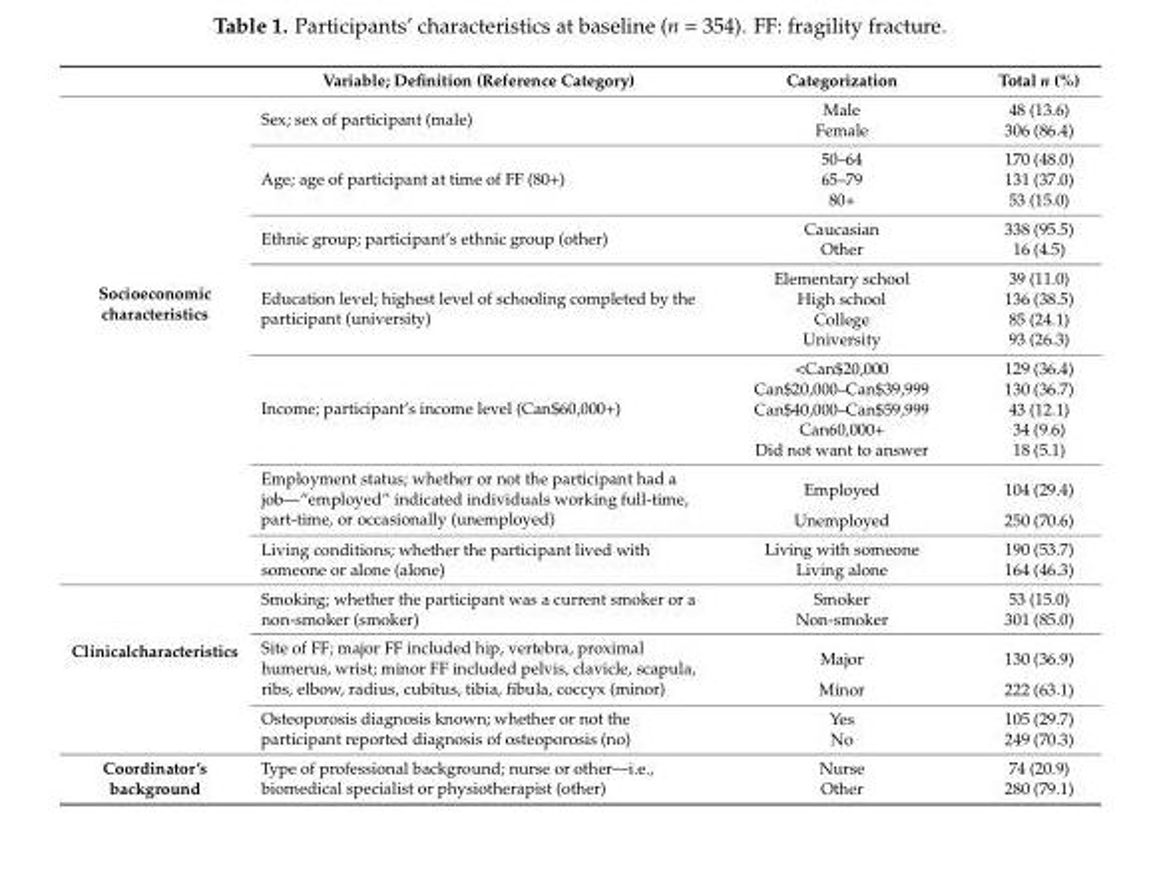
<table><thead><tr><td></td><td>Variable; Definition (Reference Category)</td><td>Categorization</td><td>Total n (%)</td></tr></thead><tbody><tr><td rowspan="20">Socioeconomic characteristics</td><td rowspan="2">Sex; sex of participant (male)</td><td>Male</td><td>48 (13.6)</td></tr><tr><td>Female</td><td>306 (86.4)</td></tr><tr><td rowspan="3">Age; age of participant at time of FF (80+)</td><td>50–64</td><td>170 (48.0)</td></tr><tr><td>65–79</td><td>131 (37.0)</td></tr><tr><td>80+</td><td>53 (15.0)</td></tr><tr><td rowspan="2">Ethnic group; participant’s ethnic group (other)</td><td>Caucasian</td><td>338 (95.5)</td></tr><tr><td>Other</td><td>16 (4.5)</td></tr><tr><td rowspan="4">Education level; highest level of schooling completed by the participant (university)</td><td>Elementary school</td><td>39 (11.0)</td></tr><tr><td>High school</td><td>136 (38.5)</td></tr><tr><td>College</td><td>85 (24.1)</td></tr><tr><td>University</td><td>93 (26.3)</td></tr><tr><td rowspan="5">Income; participant’s income level (Can$60,000+)</td><td>&lt;Can$20,000</td><td>129 (36.4)</td></tr><tr><td>Can$20,000–Can$39,999</td><td>130 (36.7)</td></tr><tr><td>Can$40,000–Can$59,999</td><td>43 (12.1)</td></tr><tr><td>Can60,000+</td><td>34 (9.6)</td></tr><tr><td>Did not want to answer</td><td>18 (5.1)</td></tr><tr><td rowspan="2">Employment status; whether or not the participant had a job—“employed” indicated individuals working full-time, part-time, or occasionally (unemployed)</td><td>Employed</td><td>104 (29.4)</td></tr><tr><td>Unemployed</td><td>250 (70.6)</td></tr><tr><td rowspan="2">Living conditions; whether the participant lived with someone or alone (alone)</td><td>Living with someone</td><td>190 (53.7)</td></tr><tr><td>Living alone</td><td>164 (46.3)</td></tr><tr><td rowspan="6">Clinicalcharacteristics</td><td rowspan="2">Smoking; whether the participant was a current smoker or a non-smoker (smoker)</td><td>Smoker</td><td>53 (15.0)</td></tr><tr><td>Non-smoker</td><td>301 (85.0)</td></tr><tr><td rowspan="2">Site of FF; major FF included hip, vertebra, proximal humerus, wrist; minor FF included pelvis, clavicle, scapula, ribs, elbow, radius, cubitus, tibia, fibula, coccyx (minor)</td><td>Major</td><td>130 (36.9)</td></tr><tr><td>Minor</td><td>222 (63.1)</td></tr><tr><td rowspan="2">Osteoporosis diagnosis known; whether or not the participant reported diagnosis of osteoporosis (no)</td><td>Yes</td><td>105 (29.7)</td></tr><tr><td>No</td><td>249 (70.3)</td></tr><tr><td rowspan="2">Coordinator’s background</td><td rowspan="2">Type of professional background; nurse or other—i.e., biomedical specialist or physiotherapist (other)</td><td>Nurse</td><td>74 (20.9)</td></tr><tr><td>Other</td><td>280 (79.1)</td></tr></tbody></table>